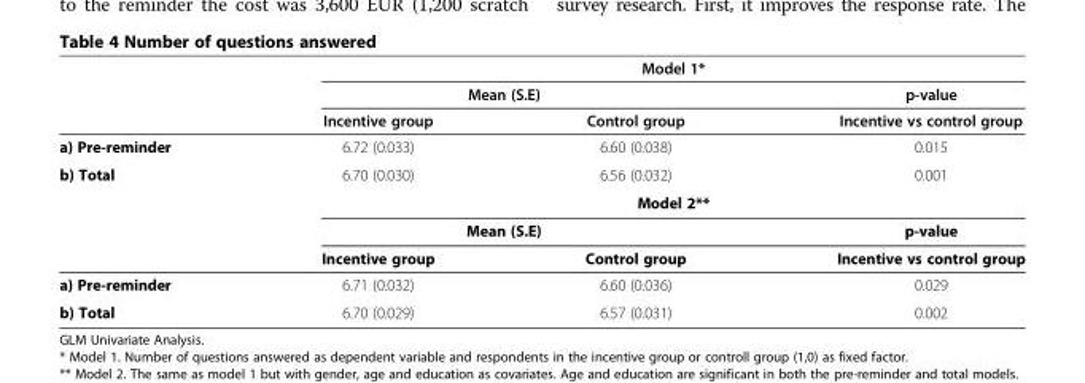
<table><thead><tr><td rowspan="3"></td><td colspan="3">Model 1*</td></tr><tr><td colspan="2">Mean (S.E)</td><td rowspan="2">p-value Incentive vs control group</td></tr><tr><td>Incentive group</td><td>Control group</td></tr></thead><tbody><tr><td>a) Pre-reminder</td><td>6.72 (0.033)</td><td>6.60 (0.038)</td><td>0.015</td></tr><tr><td rowspan="4">b) Total</td><td>6.70 (0.030)</td><td>6.56 (0.032)</td><td>0.001</td></tr><tr><td colspan="3">Model 2**</td></tr><tr><td colspan="2">Mean (S.E)</td><td>p-value</td></tr><tr><td>Incentive group</td><td>Control group</td><td>Incentive vs control group</td></tr><tr><td>a) Pre-reminder</td><td>6.71 (0.032)</td><td>6.60 (0.036)</td><td>0.029</td></tr><tr><td>b) Total</td><td>6.70 (0.029)</td><td>6.57 (0.031)</td><td>0.002</td></tr></tbody></table>